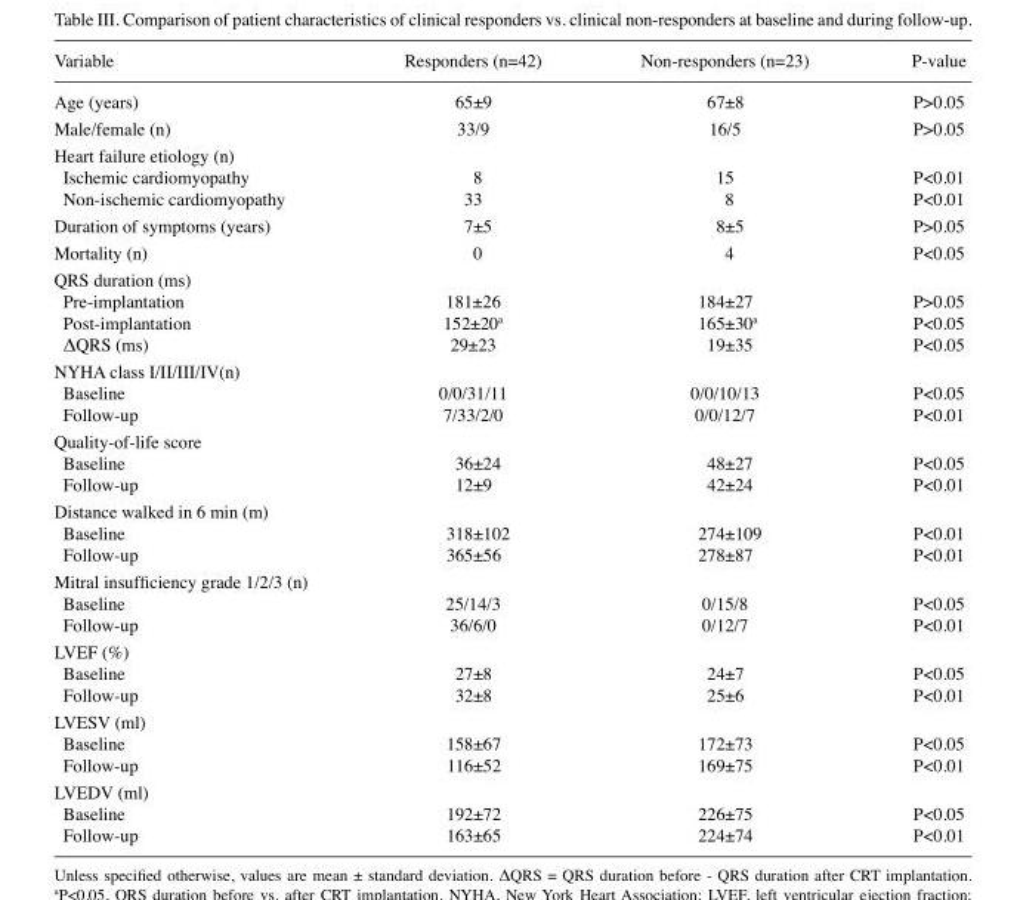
<table><thead><tr><td>Variable</td><td>Responders (n=42)</td><td>Non-responders (n=23)</td><td>P-value</td></tr></thead><tbody><tr><td>Age (years)</td><td>65±9</td><td>67±8</td><td>P&gt;0.05</td></tr><tr><td>Male/female (n)</td><td>33/9</td><td>16/5</td><td>P&gt;0.05</td></tr><tr><td colspan="4">Heart failure etiology (n)</td></tr><tr><td>Ischemic cardiomyopathy</td><td>8</td><td>15</td><td>P&lt;0.01</td></tr><tr><td>Non-ischemic cardiomyopathy</td><td>33</td><td>8</td><td>P&lt;0.01</td></tr><tr><td>Duration of symptoms (years)</td><td>7±5</td><td>8±5</td><td>P&gt;0.05</td></tr><tr><td>Mortality (n)</td><td>0</td><td>4</td><td>P&lt;0.05</td></tr><tr><td colspan="4">QRS duration (ms)</td></tr><tr><td>Pre-implantation</td><td>181±26</td><td>184±27</td><td>P&gt;0.05</td></tr><tr><td>Post-implantation</td><td>152±20<sup>a</sup></td><td>165±30<sup>a</sup></td><td>P&lt;0.05</td></tr><tr><td>ΔQRS (ms)</td><td>29±23</td><td>19±35</td><td>P&lt;0.05</td></tr><tr><td colspan="4">NYHA class I/II/III/IV(n)</td></tr><tr><td>Baseline</td><td>0/0/31/11</td><td>0/0/10/13</td><td>P&lt;0.05</td></tr><tr><td>Follow-up</td><td>7/33/2/0</td><td>0/0/12/7</td><td>P&lt;0.01</td></tr><tr><td colspan="4">Quality-of-life score</td></tr><tr><td>Baseline</td><td>36±24</td><td>48±27</td><td>P&lt;0.05</td></tr><tr><td>Follow-up</td><td>12±9</td><td>42±24</td><td>P&lt;0.01</td></tr><tr><td colspan="4">Distance walked in 6 min (m)</td></tr><tr><td>Baseline</td><td>318±102</td><td>274±109</td><td>P&lt;0.01</td></tr><tr><td>Follow-up</td><td>365±56</td><td>278±87</td><td>P&lt;0.01</td></tr><tr><td colspan="4">Mitral insufficiency grade 1/2/3 (n)</td></tr><tr><td>Baseline</td><td>25/14/3</td><td>0/15/8</td><td>P&lt;0.05</td></tr><tr><td>Follow-up</td><td>36/6/0</td><td>0/12/7</td><td>P&lt;0.01</td></tr><tr><td colspan="4">LVEF (%)</td></tr><tr><td>Baseline</td><td>27±8</td><td>24±7</td><td>P&lt;0.05</td></tr><tr><td>Follow-up</td><td>32±8</td><td>25±6</td><td>P&lt;0.01</td></tr><tr><td colspan="4">LVESV (ml)</td></tr><tr><td>Baseline</td><td>158±67</td><td>172±73</td><td>P&lt;0.05</td></tr><tr><td>Follow-up</td><td>116±52</td><td>169±75</td><td>P&lt;0.01</td></tr><tr><td colspan="4">LVEDV (ml)</td></tr><tr><td>Baseline</td><td>192±72</td><td>226±75</td><td>P&lt;0.05</td></tr><tr><td>Follow-up</td><td>163±65</td><td>224±74</td><td>P&lt;0.01</td></tr></tbody></table>